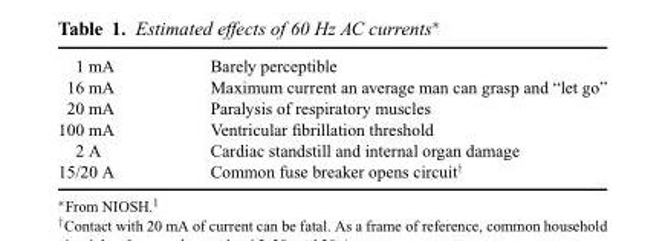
<table><tbody><tr><td>1 mA</td><td>Barely perceptible</td></tr><tr><td>16 mA</td><td>Maximum current an average man can grasp and “let go”</td></tr><tr><td>20 mA</td><td>Paralysis of respiratory muscles</td></tr><tr><td>100 mA</td><td>Ventricular fibrillation threshold</td></tr><tr><td>2 A</td><td>Cardiac standstill and internal organ damage</td></tr><tr><td>15/20 A</td><td>Common fuse breaker opens circuit†</td></tr></tbody></table>